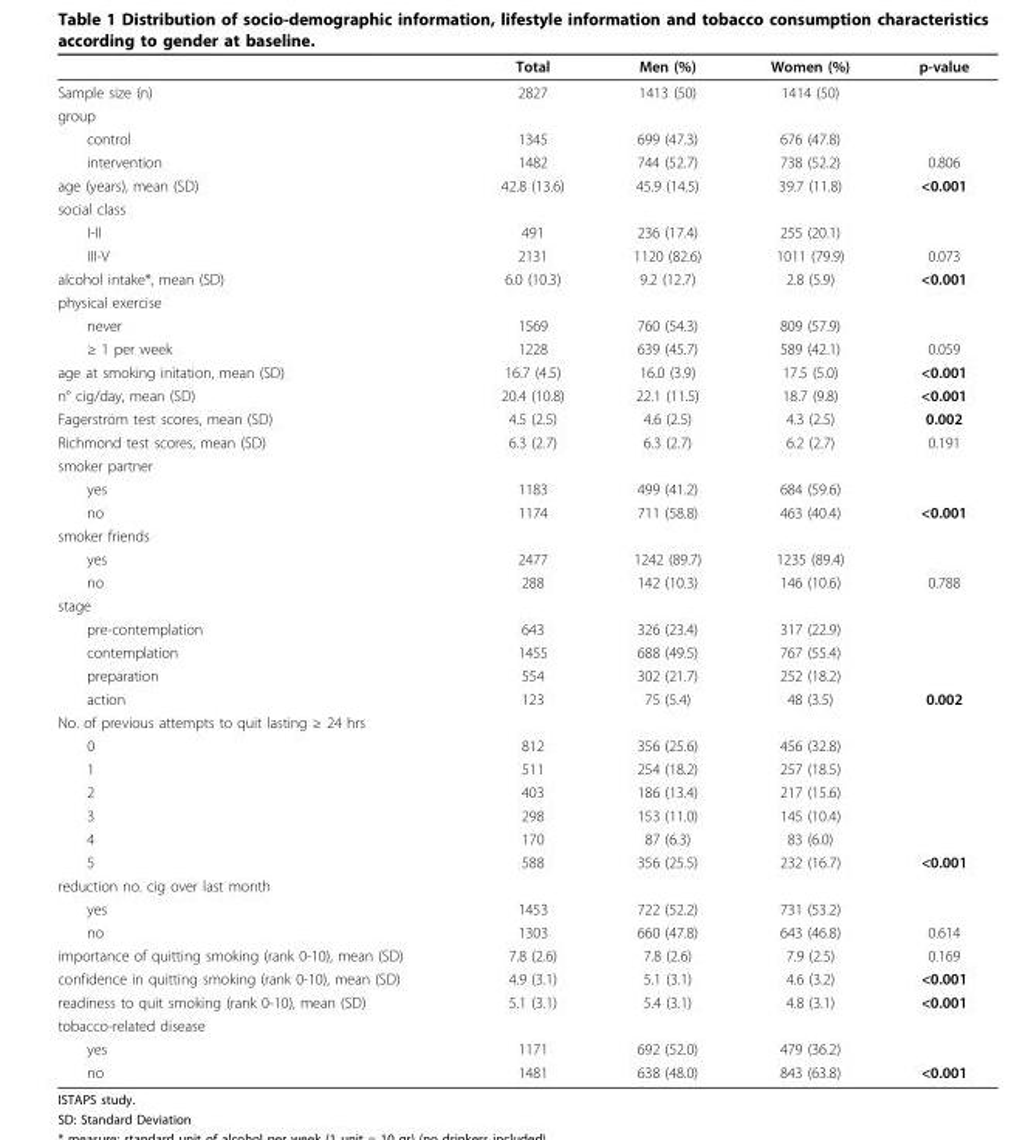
<table><thead><tr><td></td><td>Total</td><td>Men (%)</td><td>Women (%)</td><td>p-value</td></tr></thead><tbody><tr><td>Sample size (n)</td><td>2827</td><td>1413 (50)</td><td>1414 (50)</td><td></td></tr><tr><td colspan="5">group</td></tr><tr><td>control</td><td>1345</td><td>699 (47.3)</td><td>676 (47.8)</td><td></td></tr><tr><td>intervention</td><td>1482</td><td>744 (52.7)</td><td>738 (52.2)</td><td>0.806</td></tr><tr><td>age (years), mean (SD)</td><td>42.8 (13.6)</td><td>45.9 (14.5)</td><td>39.7 (11.8)</td><td>&lt;0.001</td></tr><tr><td colspan="5">social class</td></tr><tr><td>I-II</td><td>491</td><td>236 (17.4)</td><td>255 (20.1)</td><td></td></tr><tr><td>III-V</td><td>2131</td><td>1120 (82.6)</td><td>1011 (79.9)</td><td>0.073</td></tr><tr><td>alcohol intake*, mean (SD)</td><td>6.0 (10.3)</td><td>9.2 (12.7)</td><td>2.8 (5.9)</td><td>&lt;0.001</td></tr><tr><td colspan="5">physical exercise</td></tr><tr><td>never</td><td>1569</td><td>760 (54.3)</td><td>809 (57.9)</td><td></td></tr><tr><td>≥ 1 per week</td><td>1228</td><td>639 (45.7)</td><td>589 (42.1)</td><td>0.059</td></tr><tr><td>age at smoking initation, mean (SD)</td><td>16.7 (4.5)</td><td>16.0 (3.9)</td><td>17.5 (5.0)</td><td>&lt;0.001</td></tr><tr><td>n° cig/day, mean (SD)</td><td>20.4 (10.8)</td><td>22.1 (11.5)</td><td>18.7 (9.8)</td><td>&lt;0.001</td></tr><tr><td>Fagerström test scores, mean (SD)</td><td>4.5 (2.5)</td><td>4.6 (2.5)</td><td>4.3 (2.5)</td><td>0.002</td></tr><tr><td>Richmond test scores, mean (SD)</td><td>6.3 (2.7)</td><td>6.3 (2.7)</td><td>6.2 (2.7)</td><td>0.191</td></tr><tr><td colspan="5">smoker partner</td></tr><tr><td>yes</td><td>1183</td><td>499 (41.2)</td><td>684 (59.6)</td><td></td></tr><tr><td>no</td><td>1174</td><td>711 (58.8)</td><td>463 (40.4)</td><td>&lt;0.001</td></tr><tr><td colspan="5">smoker friends</td></tr><tr><td>yes</td><td>2477</td><td>1242 (89.7)</td><td>1235 (89.4)</td><td></td></tr><tr><td>no</td><td>288</td><td>142 (10.3)</td><td>146 (10.6)</td><td>0.788</td></tr><tr><td colspan="5">stage</td></tr><tr><td>pre-contemplation</td><td>643</td><td>326 (23.4)</td><td>317 (22.9)</td><td></td></tr><tr><td>contemplation</td><td>1455</td><td>688 (49.5)</td><td>767 (55.4)</td><td></td></tr><tr><td>preparation</td><td>554</td><td>302 (21.7)</td><td>252 (18.2)</td><td></td></tr><tr><td>action</td><td>123</td><td>75 (5.4)</td><td>48 (3.5)</td><td>0.002</td></tr><tr><td colspan="5">No. of previous attempts to quit lasting ≥ 24 hrs</td></tr><tr><td>0</td><td>812</td><td>356 (25.6)</td><td>456 (32.8)</td><td></td></tr><tr><td>1</td><td>511</td><td>254 (18.2)</td><td>257 (18.5)</td><td></td></tr><tr><td>2</td><td>403</td><td>186 (13.4)</td><td>217 (15.6)</td><td></td></tr><tr><td>3</td><td>298</td><td>153 (11.0)</td><td>145 (10.4)</td><td></td></tr><tr><td>4</td><td>170</td><td>87 (6.3)</td><td>83 (6.0)</td><td></td></tr><tr><td>5</td><td>588</td><td>356 (25.5)</td><td>232 (16.7)</td><td>&lt;0.001</td></tr><tr><td colspan="5">reduction no. cig over last month</td></tr><tr><td>yes</td><td>1453</td><td>722 (52.2)</td><td>731 (53.2)</td><td></td></tr><tr><td>no</td><td>1303</td><td>660 (47.8)</td><td>643 (46.8)</td><td>0.614</td></tr><tr><td>importance of quitting smoking (rank 0-10), mean (SD)</td><td>7.8 (2.6)</td><td>7.8 (2.6)</td><td>7.9 (2.5)</td><td>0.169</td></tr><tr><td>confidence in quitting smoking (rank 0-10), mean (SD)</td><td>4.9 (3.1)</td><td>5.1 (3.1)</td><td>4.6 (3.2)</td><td>&lt;0.001</td></tr><tr><td>readiness to quit smoking (rank 0-10), mean (SD)</td><td>5.1 (3.1)</td><td>5.4 (3.1)</td><td>4.8 (3.1)</td><td>&lt;0.001</td></tr><tr><td colspan="5">tobacco-related disease</td></tr><tr><td>yes</td><td>1171</td><td>692 (52.0)</td><td>479 (36.2)</td><td></td></tr><tr><td>no</td><td>1481</td><td>638 (48.0)</td><td>843 (63.8)</td><td>&lt;0.001</td></tr></tbody></table>